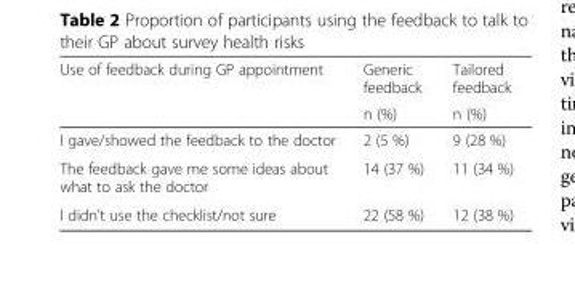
<table><thead><tr><td rowspan="2">Use of feedback during GP appointment</td><td rowspan="2">Generic feedback n (%)</td><td rowspan="2">Tailored feedback n (%)</td></tr><tr></tr></thead><tbody><tr><td>I gave/showed the feedback to the doctor</td><td>2 (5 %)</td><td>9 (28 %)</td></tr><tr><td>The feedback gave me some ideas about what to ask the doctor</td><td>14 (37 %)</td><td>11 (34 %)</td></tr><tr><td>I didn’t use the checklist/not sure</td><td>22 (58 %)</td><td>12 (38 %)</td></tr></tbody></table>